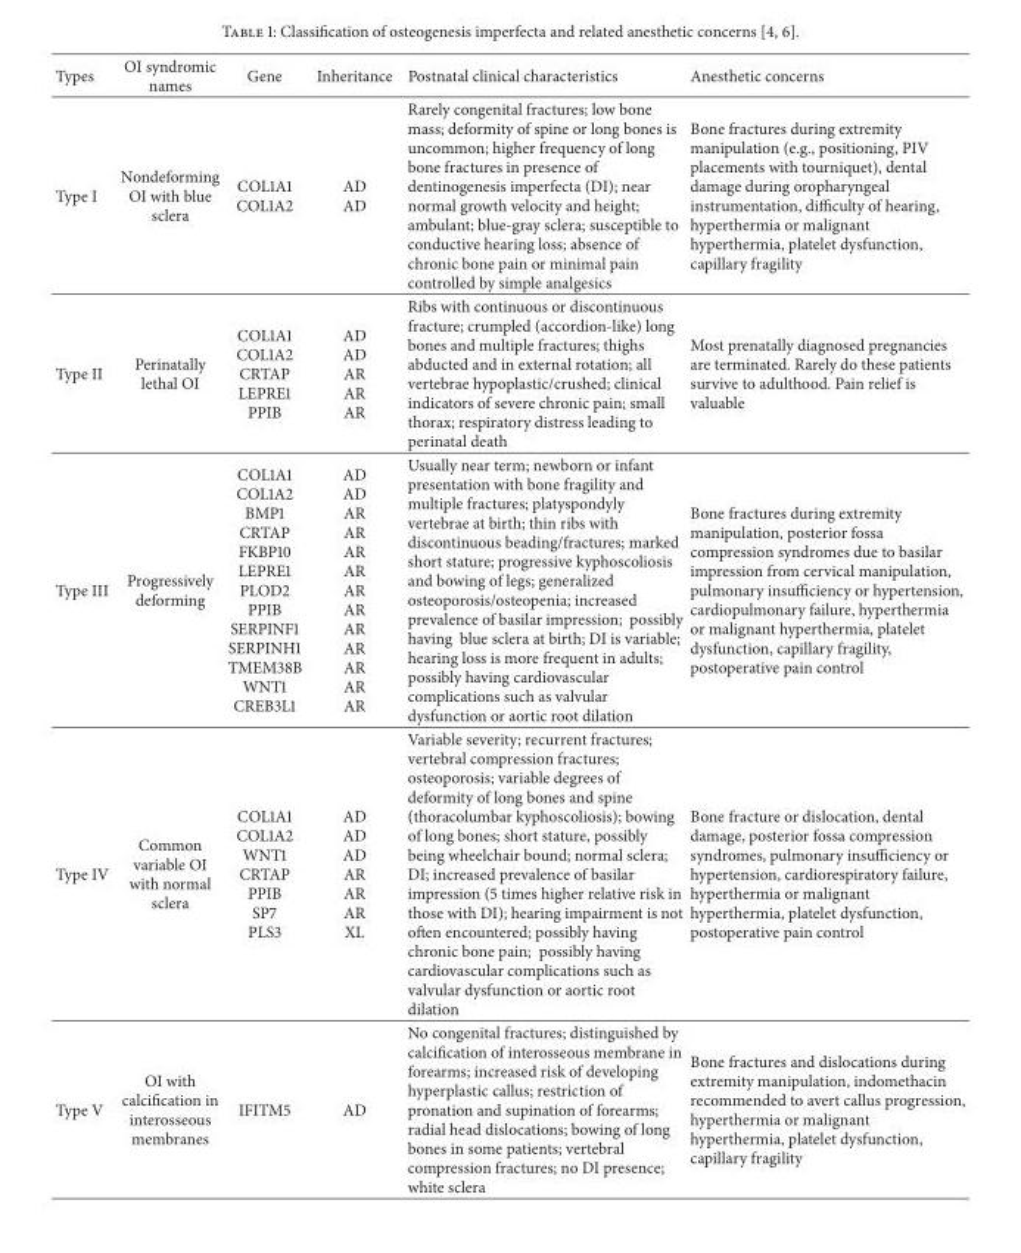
<table><thead><tr><td>Types</td><td>OI syndromic names</td><td>Gene</td><td>Inheritance</td><td>Postnatal clinical characteristics</td><td>Anesthetic concerns</td></tr></thead><tbody><tr><td>Type I</td><td>Nondeforming OI with blue sclera</td><td>COL1A1 COL1A2</td><td>AD AD</td><td>Rarely congenital fractures; low bone mass; deformity of spine or long bones is uncommon; higher frequency of long bone fractures in presence of dentinogenesis imperfecta (DI); near normal growth velocity and height; ambulant; blue-gray sclera; susceptible to conductive hearing loss; absence of chronic bone pain or minimal pain controlled by simple analgesics</td><td>Bone fractures during extremity manipulation (e.g., positioning, PIV placements with tourniquet), dental damage during oropharyngeal instrumentation, difficulty of hearing, hyperthermia or malignant hyperthermia, platelet dysfunction, capillary fragility</td></tr><tr><td>Type II</td><td>Perinatally lethal OI</td><td>COL1A1 COL1A2 CRTAP LEPRE1 PPIB</td><td>AD AD AR AR AR</td><td>Ribs with continuous or discontinuous fracture; crumpled (accordion-like) long bones and multiple fractures; thighs abducted and in external rotation; all vertebrae hypoplastic/crushed; clinical indicators of severe chronic pain; small thorax; respiratory distress leading to perinatal death</td><td>Most prenatally diagnosed pregnancies are terminated. Rarely do these patients survive to adulthood. Pain relief is valuable</td></tr><tr><td>Type III</td><td>Progressively deforming</td><td>COL1A1 COL1A2 BMP1 CRTAP FKBP10 LEPRE1 PLOD2 PPIB SERPINF1 SERPINH1 TMEM38B WNT1 CREB3L1</td><td>AD AD AR AR AR AR AR AR AR AR AR AR AR</td><td>Usually near term; newborn or infant presentation with bone fragility and multiple fractures; platyspondyly vertebrae at birth; thin ribs with discontinuous beading/fractures; marked short stature; progressive kyphoscoliosis and bowing of legs; generalized osteoporosis/osteopenia; increased prevalence of basilar impression; possibly having blue sclera at birth; DI is variable; hearing loss is more frequent in adults; possibly having cardiovascular complications such as valvular dysfunction or aortic root dilation</td><td>Bone fractures during extremity manipulation, posterior fossa compression syndromes due to basilar impression from cervical manipulation, pulmonary insufficiency or hypertension, cardiopulmonary failure, hyperthermia or malignant hyperthermia, platelet dysfunction, capillary fragility, postoperative pain control</td></tr><tr><td>Type IV</td><td>Common variable OI with normal sclera</td><td>COL1A1 COL1A2 WNT1 CRTAP PPIB SP7 PLS3</td><td>AD AD AD AR AR AR XL</td><td>Variable severity; recurrent fractures; vertebral compression fractures; osteoporosis; variable degrees of deformity of long bones and spine (thoracolumbar kyphoscoliosis); bowing of long bones; short stature, possibly being wheelchair bound; normal sclera; DI; increased prevalence of basilar impression (5 times higher relative risk in those with DI); hearing impairment is not often encountered; possibly having chronic bone pain; possibly having cardiovascular complications such as valvular dysfunction or aortic root dilation</td><td>Bone fracture or dislocation, dental damage, posterior fossa compression syndromes, pulmonary insufficiency or hypertension, cardiorespiratory failure, hyperthermia or malignant hyperthermia, platelet dysfunction, postoperative pain control</td></tr><tr><td>Type V</td><td>OI with calcification in interosseous membranes</td><td>IFITM5</td><td>AD</td><td>No congenital fractures; distinguished by calcification of interosseous membrane in forearms; increased risk of developing hyperplastic callus; restriction of pronation and supination of forearms; radial head dislocations; bowing of long bones in some patients; vertebral compression fractures; no DI presence; white sclera</td><td>Bone fractures and dislocations during extremity manipulation, indomethacin recommended to avert callus progression, hyperthermia or malignant hyperthermia, platelet dysfunction, capillary fragility</td></tr></tbody></table>